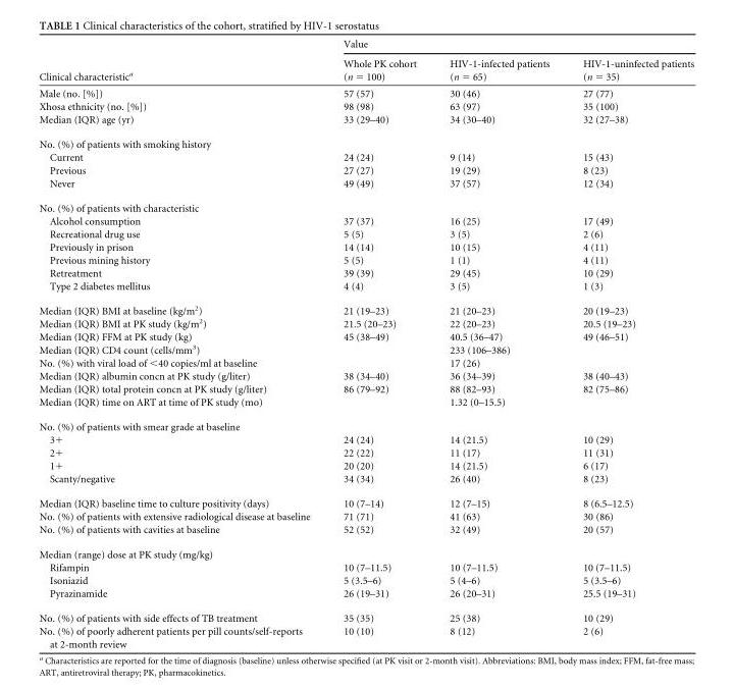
<table><thead><tr><td rowspan="2">Clinical characteristic<sup>a</sup></td><td colspan="3">Value</td></tr><tr><td>Whole PK cohort (n = 100)</td><td>HIV-1-infected patients (n = 65)</td><td>HIV-1-uninfected patients (n = 35)</td></tr></thead><tbody><tr><td>Male (no. [%])</td><td>57 (57)</td><td>30 (46)</td><td>27 (77)</td></tr><tr><td>Xhosa ethnicity (no. [%])</td><td>98 (98)</td><td>63 (97)</td><td>35 (100)</td></tr><tr><td>Median (IQR) age (yr)</td><td>33 (29–40)</td><td>34 (30–40)</td><td>32 (27–38)</td></tr><tr><td colspan="4">No. (%) of patients with smoking history</td></tr><tr><td>Current</td><td>24 (24)</td><td>9 (14)</td><td>15 (43)</td></tr><tr><td>Previous</td><td>27 (27)</td><td>19 (29)</td><td>8 (23)</td></tr><tr><td>Never</td><td>49 (49)</td><td>37 (57)</td><td>12 (34)</td></tr><tr><td colspan="4">No. (%) of patients with characteristic</td></tr><tr><td>Alcohol consumption</td><td>37 (37)</td><td>16 (25)</td><td>17 (49)</td></tr><tr><td>Recreational drug use</td><td>5 (5)</td><td>3 (5)</td><td>2 (6)</td></tr><tr><td>Previously in prison</td><td>14 (14)</td><td>10 (15)</td><td>4 (11)</td></tr><tr><td>Previous mining history</td><td>5 (5)</td><td>1 (1)</td><td>4 (11)</td></tr><tr><td>Retreatment</td><td>39 (39)</td><td>29 (45)</td><td>10 (29)</td></tr><tr><td>Type 2 diabetes mellitus</td><td>4 (4)</td><td>3 (5)</td><td>1 (3)</td></tr><tr><td>Median (IQR) BMI at baseline (kg/m<sup>2</sup>)</td><td>21 (19–23)</td><td>21 (20–23)</td><td>20 (19–23)</td></tr><tr><td>Median (IQR) BMI at PK study (kg/m<sup>2</sup>)</td><td>21.5 (20–23)</td><td>22 (20–23)</td><td>20.5 (19–23)</td></tr><tr><td>Median (IQR) FFM at PK study (kg)</td><td>45 (38–49)</td><td>40.5 (36–47)</td><td>49 (46–51)</td></tr><tr><td>Median (IQR) CD4 count (cells/mm<sup>3</sup>)</td><td></td><td>233 (106–386)</td><td></td></tr><tr><td>No. (%) with viral load of &lt;40 copies/ml at baseline</td><td></td><td>17 (26)</td><td></td></tr><tr><td>Median (IQR) albumin concn at PK study (g/liter)</td><td>38 (34–40)</td><td>36 (34–39)</td><td>38 (40–43)</td></tr><tr><td>Median (IQR) total protein concn at PK study (g/liter)</td><td>86 (79–92)</td><td>88 (82–93)</td><td>82 (75–86)</td></tr><tr><td>Median (IQR) time on ART at time of PK study (mo)</td><td></td><td>1.32 (0–15.5)</td><td></td></tr><tr><td colspan="4">No. (%) of patients with smear grade at baseline</td></tr><tr><td>3+</td><td>24 (24)</td><td>14 (21.5)</td><td>10 (29)</td></tr><tr><td>2+</td><td>22 (22)</td><td>11 (17)</td><td>11 (31)</td></tr><tr><td>1+</td><td>20 (20)</td><td>14 (21.5)</td><td>6 (17)</td></tr><tr><td>Scanty/negative</td><td>34 (34)</td><td>26 (40)</td><td>8 (23)</td></tr><tr><td>Median (IQR) baseline time to culture positivity (days)</td><td>10 (7–14)</td><td>12 (7–15)</td><td>8 (6.5–12.5)</td></tr><tr><td>No. (%) of patients with extensive radiological disease at baseline</td><td>71 (71)</td><td>41 (63)</td><td>30 (86)</td></tr><tr><td>No. (%) of patients with cavities at baseline</td><td>52 (52)</td><td>32 (49)</td><td>20 (57)</td></tr><tr><td colspan="4">Median (range) dose at PK study (mg/kg)</td></tr><tr><td>Rifampin</td><td>10 (7–11.5)</td><td>10 (7–11.5)</td><td>10 (7–11.5)</td></tr><tr><td>Isoniazid</td><td>5 (3.5–6)</td><td>5 (4–6)</td><td>5 (3.5–6)</td></tr><tr><td>Pyrazinamide</td><td>26 (19–31)</td><td>26 (20–31)</td><td>25.5 (19–31)</td></tr><tr><td>No. (%) of patients with side effects of TB treatment</td><td>35 (35)</td><td>25 (38)</td><td>10 (29)</td></tr><tr><td>No. (%) of poorly adherent patients per pill counts/self-reports at 2-month review</td><td>10 (10)</td><td>8 (12)</td><td>2 (6)</td></tr></tbody></table>